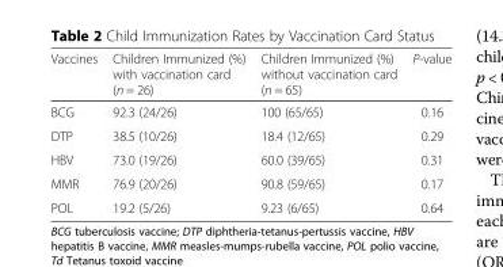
<table><thead><tr><td>Vaccines</td><td>Children Immunized (%) with vaccination card (n = 26)</td><td>Children Immunized (%) without vaccination card (n = 65)</td><td>P-value</td></tr></thead><tbody><tr><td>BCG</td><td>92.3 (24/26)</td><td>100 (65/65)</td><td>0.16</td></tr><tr><td>DTP</td><td>38.5 (10/26)</td><td>18.4 (12/65)</td><td>0.29</td></tr><tr><td>HBV</td><td>73.0 (19/26)</td><td>60.0 (39/65)</td><td>0.31</td></tr><tr><td>MMR</td><td>76.9 (20/26)</td><td>90.8 (59/65)</td><td>0.17</td></tr><tr><td>POL</td><td>19.2 (5/26)</td><td>9.23 (6/65)</td><td>0.64</td></tr></tbody></table>